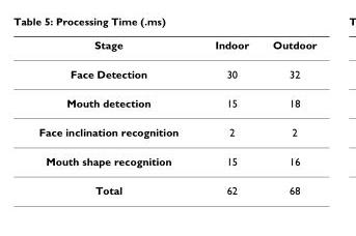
<table><thead><tr><td>Stage</td><td>Indoor</td><td>Outdoor</td></tr></thead><tbody><tr><td>Face Detection</td><td>30</td><td>32</td></tr><tr><td>Mouth detection</td><td>15</td><td>18</td></tr><tr><td>Face inclination recognition</td><td>2</td><td>2</td></tr><tr><td>Mouth shape recognition</td><td>15</td><td>16</td></tr><tr><td>Total</td><td>62</td><td>68</td></tr></tbody></table>